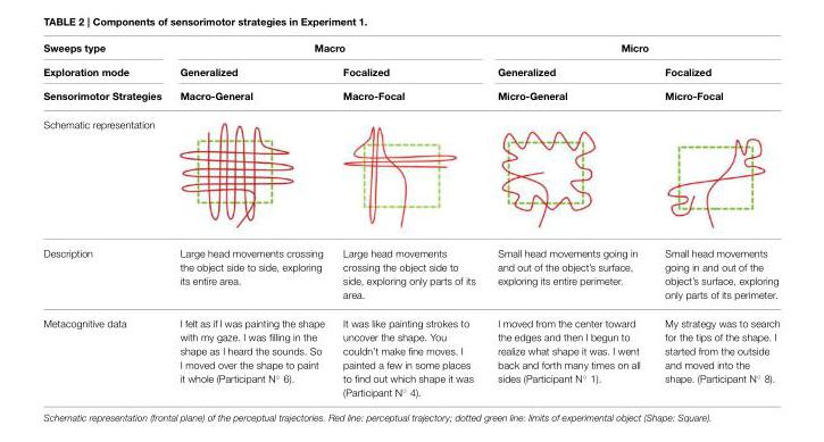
<table><thead><tr><td rowspan="3">Sweeps type Exploration mode Sensorimotor Strategies</td><td colspan="2">Macro</td><td colspan="2">Micro</td></tr><tr><td rowspan="2">Generalized Macro-General</td><td rowspan="2">Focalized Macro-Focal</td><td rowspan="2">Generalized Micro-General</td><td rowspan="2">Focalized Micro-Focal</td></tr><tr></tr></thead><tbody><tr><td colspan="5">Schematic representation</td></tr><tr><td>Description</td><td>Large head movements crossing the object side to side, exploring its entire area.</td><td>Large head movements crossing the object side to side, exploring only parts of its area.</td><td>Small head movements going in and out of the object’s surface, exploring its entire perimeter.</td><td>Small head movements going in and out of the object’s surface, exploring only parts of its perimeter.</td></tr><tr><td>Metacognitive data</td><td>I felt as if I was painting the shape with my gaze. I was filling in the shape as I heard the sounds. So I moved over the shape to paint it whole (Participant N◦ 6).</td><td>It was like painting strokes to uncover the shape. You couldn’t make fine moves. I painted a few in some places to find out which shape it was (Participant N◦ 4).</td><td>I moved from the center toward the edges and then I begun to realize what shape it was. I went back and forth many times on all sides (Participant N◦ 1).</td><td>My strategy was to search for the tips of the shape. I started from the outside and moved into the shape. (Participant N◦ 8).</td></tr></tbody></table>